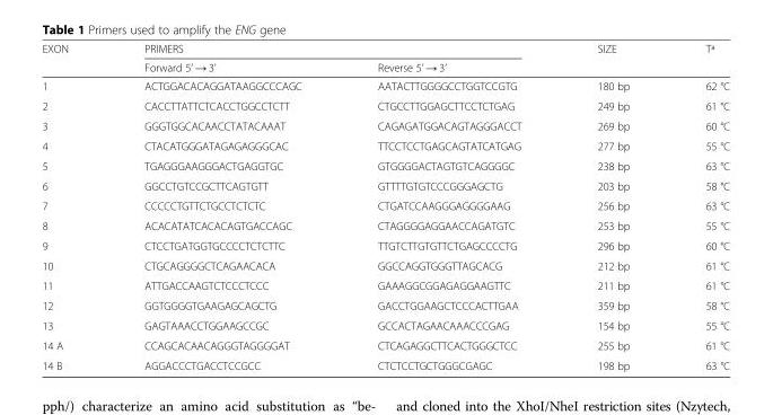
<table><thead><tr><td rowspan="2">EXON</td><td colspan="2">PRIMERS</td><td rowspan="2">SIZE</td><td rowspan="2">Tª</td></tr><tr><td>Forward 5’ → 3’</td><td>Reverse 5’ → 3’</td></tr></thead><tbody><tr><td>1</td><td>ACTGGACACAGGATAAGGCCCAGC</td><td>AATACTTGGGGCCTGGTCCGTG</td><td>180 bp</td><td>62 °C</td></tr><tr><td>2</td><td>CACCTTATTCTCACCTGGCCTCTT</td><td>CTGCCTTGGAGCTTCCTCTGAG</td><td>249 bp</td><td>61 °C</td></tr><tr><td>3</td><td>GGGTGGCACAACCTATACAAAT</td><td>CAGAGATGGACAGTAGGGACCT</td><td>269 bp</td><td>60 °C</td></tr><tr><td>4</td><td>CTACATGGGATAGAGAGGGCAC</td><td>TTCCTCCTGAGCAGTATCATGAG</td><td>277 bp</td><td>55 °C</td></tr><tr><td>5</td><td>TGAGGGAAGGGACTGAGGTGC</td><td>GTGGGGACTAGTGTCAGGGGC</td><td>238 bp</td><td>63 °C</td></tr><tr><td>6</td><td>GGCCTGTCCGCTTCAGTGTT</td><td>GTTTTGTGTCCCGGGAGCTG</td><td>203 bp</td><td>58 °C</td></tr><tr><td>7</td><td>CCCCCTGTTCTGCCTCTCTC</td><td>CTGATCCAAGGGAGGGGAAG</td><td>256 bp</td><td>63 °C</td></tr><tr><td>8</td><td>ACACATATCACACAGTGACCAGC</td><td>CTAGGGGAGGAACCAGATGTC</td><td>253 bp</td><td>55 °C</td></tr><tr><td>9</td><td>CTCCTGATGGTGCCCCTCTCTTC</td><td>TTGTCTTGTGTTCTGAGCCCCTG</td><td>296 bp</td><td>60 °C</td></tr><tr><td>10</td><td>CTGCAGGGGCTCAGAACACA</td><td>GGCCAGGTGGGTTAGCACG</td><td>212 bp</td><td>61 °C</td></tr><tr><td>11</td><td>ATTGACCAAGTCTCCCTCCC</td><td>GAAAGGCGGAGAGGAAGTTC</td><td>211 bp</td><td>61 °C</td></tr><tr><td>12</td><td>GGTGGGGTGAAGAGCAGCTG</td><td>GACCTGGAAGCTCCCACTTGAA</td><td>359 bp</td><td>58 °C</td></tr><tr><td>13</td><td>GAGTAAACCTGGAAGCCGC</td><td>GCCACTAGAACAAACCCGAG</td><td>154 bp</td><td>55 °C</td></tr><tr><td>14 A</td><td>CCAGCACAACAGGGTAGGGGAT</td><td>CTCAGAGGCTTCACTGGGCTCC</td><td>255 bp</td><td>61 °C</td></tr><tr><td>14 B</td><td>AGGACCCTGACCTCCGCC</td><td>CTCTCCTGCTGGGCGAGC</td><td>198 bp</td><td>63 °C</td></tr></tbody></table>